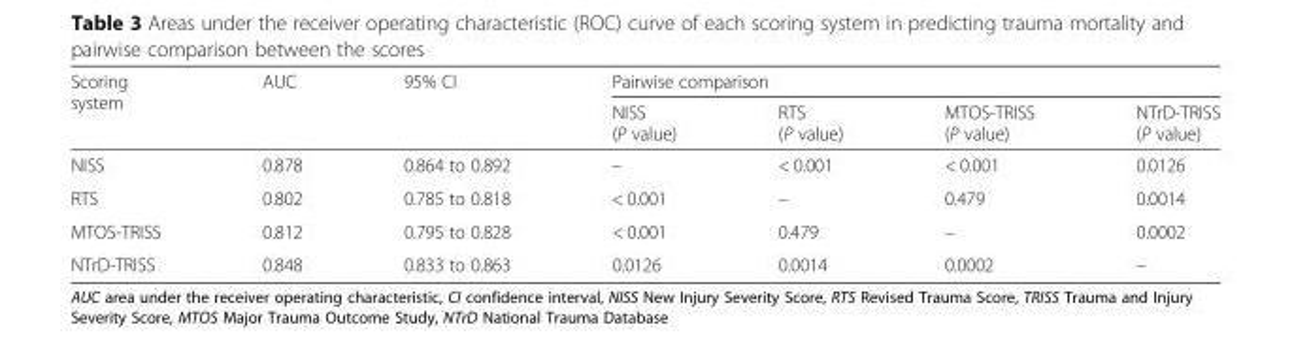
<table><thead><tr><td rowspan="2">Scoring system</td><td rowspan="2">AUC</td><td rowspan="2">95% CI</td><td colspan="4">Pairwise comparison</td></tr><tr><td>NISS (P value)</td><td>RTS (P value)</td><td>MTOS-TRISS (P value)</td><td>NTrD-TRISS (P value)</td></tr></thead><tbody><tr><td>NISS</td><td>0.878</td><td>0.864 to 0.892</td><td>–</td><td>&lt; 0.001</td><td>&lt; 0.001</td><td>0.0126</td></tr><tr><td>RTS</td><td>0.802</td><td>0.785 to 0.818</td><td>&lt; 0.001</td><td>–</td><td>0.479</td><td>0.0014</td></tr><tr><td>MTOS-TRISS</td><td>0.812</td><td>0.795 to 0.828</td><td>&lt; 0.001</td><td>0.479</td><td>–</td><td>0.0002</td></tr><tr><td>NTrD-TRISS</td><td>0.848</td><td>0.833 to 0.863</td><td>0.0126</td><td>0.0014</td><td>0.0002</td><td>–</td></tr></tbody></table>